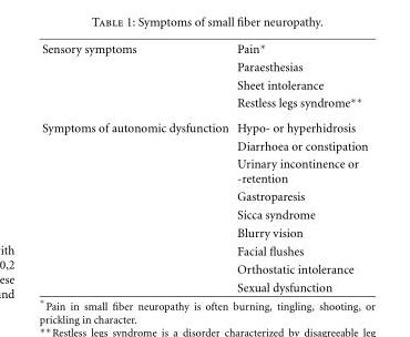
<table><tbody><tr><td rowspan="4">Sensory symptoms</td><td>Pain∗</td></tr><tr><td>Paraesthesias</td></tr><tr><td>Sheet intolerance</td></tr><tr><td>Restless legs syndrome∗∗</td></tr><tr><td rowspan="9">Symptoms of autonomic dysfunction</td><td>Hypo- or hyperhidrosis</td></tr><tr><td>Diarrhoea or constipation</td></tr><tr><td>Urinary incontinence or -retention</td></tr><tr><td>Gastroparesis</td></tr><tr><td>Sicca syndrome</td></tr><tr><td>Blurry vision</td></tr><tr><td>Facial flushes</td></tr><tr><td>Orthostatic intolerance</td></tr><tr><td>Sexual dysfunction</td></tr></tbody></table>